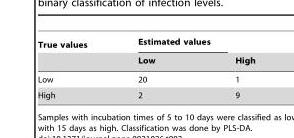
<table><thead><tr><td rowspan="2">True values</td><td rowspan="2">Estimated values Low</td><td rowspan="2">High</td></tr><tr></tr></thead><tbody><tr><td>Low</td><td>20</td><td>1</td></tr><tr><td>High</td><td>2</td><td>9</td></tr></tbody></table>